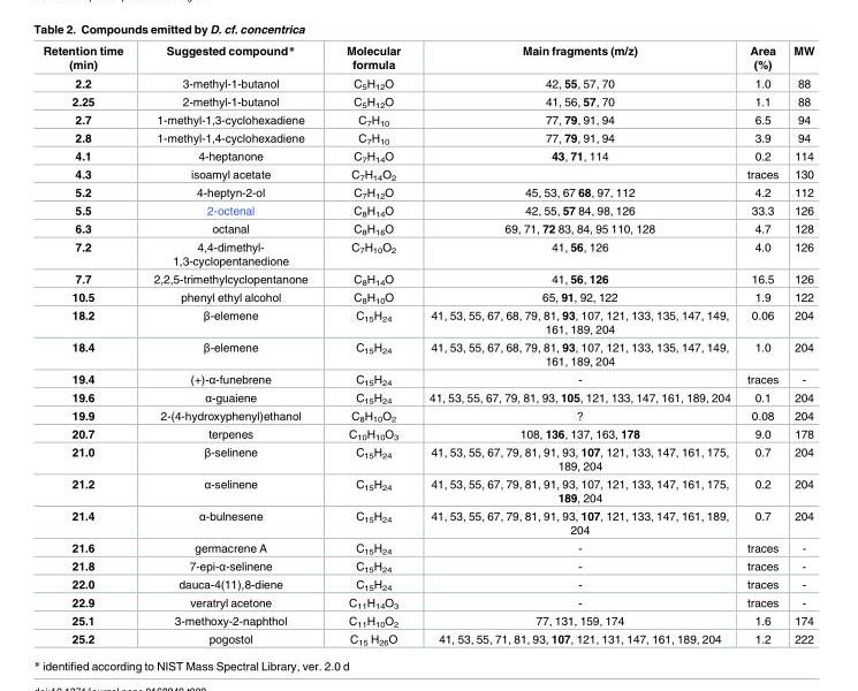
<table><thead><tr><td>Retention time (min)</td><td>Suggested compound*</td><td>Molecular formula</td><td>Main fragments (m/z)</td><td>Area (%)</td><td>MW</td></tr></thead><tbody><tr><td>2.2</td><td>3-methyl-1-butanol</td><td>C<sub>5</sub>H<sub>12</sub>O</td><td>42, 55, 57, 70</td><td>1.0</td><td>88</td></tr><tr><td>2.25</td><td>2-methyl-1-butanol</td><td>C<sub>5</sub>H<sub>12</sub>O</td><td>41, 56, 57, 70</td><td>1.1</td><td>88</td></tr><tr><td>2.7</td><td>1-methyl-1,3-cyclohexadiene</td><td>C<sub>7</sub>H<sub>10</sub></td><td>77, 79, 91, 94</td><td>6.5</td><td>94</td></tr><tr><td>2.8</td><td>1-methyl-1,4-cyclohexadiene</td><td>C<sub>7</sub>H<sub>10</sub></td><td>77, 79, 91, 94</td><td>3.9</td><td>94</td></tr><tr><td>4.1</td><td>4-heptanone</td><td>C<sub>7</sub>H<sub>14</sub>O</td><td>43, 71, 114</td><td>0.2</td><td>114</td></tr><tr><td>4.3</td><td>isoamyl acetate</td><td>C<sub>7</sub>H<sub>14</sub>O<sub>2</sub></td><td></td><td>traces</td><td>130</td></tr><tr><td>5.2</td><td>4-heptyn-2-ol</td><td>C<sub>7</sub>H<sub>12</sub>O</td><td>45, 53, 67 68, 97, 112</td><td>4.2</td><td>112</td></tr><tr><td>5.5</td><td>2-octenal</td><td>C<sub>8</sub>H<sub>14</sub>O</td><td>42, 55, 57 84, 98, 126</td><td>33.3</td><td>126</td></tr><tr><td>6.3</td><td>octanal</td><td>C<sub>8</sub>H<sub>16</sub>O</td><td>69, 71, 72 83, 84, 95 110, 128</td><td>4.7</td><td>128</td></tr><tr><td>7.2</td><td>4,4-dimethyl- 1,3-cyclopentanedione</td><td>C<sub>7</sub>H<sub>10</sub>O<sub>2</sub></td><td>41, 56, 126</td><td>4.0</td><td>126</td></tr><tr><td>7.7</td><td>2,2,5-trimethylcyclopentanone</td><td>C<sub>8</sub>H<sub>14</sub>O</td><td>41, 56, 126</td><td>16.5</td><td>126</td></tr><tr><td>10.5</td><td>phenyl ethyl alcohol</td><td>C<sub>8</sub>H<sub>10</sub>O</td><td>65, 91, 92, 122</td><td>1.9</td><td>122</td></tr><tr><td>18.2</td><td>β-elemene</td><td>C<sub>15</sub>H<sub>24</sub></td><td>41, 53, 55, 67, 68, 79, 81, 93, 107, 121, 133, 135, 147, 149, 161, 189, 204</td><td>0.06</td><td>204</td></tr><tr><td>18.4</td><td>β-elemene</td><td>C<sub>15</sub>H<sub>24</sub></td><td>41, 53, 55, 67, 68, 79, 81, 93, 107, 121, 133, 135, 147, 149, 161, 189, 204</td><td>1.0</td><td>204</td></tr><tr><td>19.4</td><td>(+)-α-funebrene</td><td>C<sub>15</sub>H<sub>24</sub></td><td>-</td><td>traces</td><td>-</td></tr><tr><td>19.6</td><td>α-guaiene</td><td>C<sub>15</sub>H<sub>24</sub></td><td>41, 53, 55, 67, 79, 81, 93, 105, 121, 133, 147, 161, 189, 204</td><td>0.1</td><td>204</td></tr><tr><td>19.9</td><td>2-(4-hydroxyphenyl)ethanol</td><td>C<sub>8</sub>H<sub>10</sub>O<sub>2</sub></td><td>?</td><td>0.08</td><td>204</td></tr><tr><td>20.7</td><td>terpenes</td><td>C<sub>10</sub>H<sub>10</sub>O<sub>3</sub></td><td>108, 136, 137, 163, 178</td><td>9.0</td><td>178</td></tr><tr><td>21.0</td><td>β-selinene</td><td>C<sub>15</sub>H<sub>24</sub></td><td>41, 53, 55, 67, 79, 81, 91, 93, 107, 121, 133, 147, 161, 175, 189, 204</td><td>0.7</td><td>204</td></tr><tr><td>21.2</td><td>α-selinene</td><td>C<sub>15</sub>H<sub>24</sub></td><td>41, 53, 55, 67, 79, 81, 91, 93, 107, 121, 133, 147, 161, 175, 189, 204</td><td>0.2</td><td>204</td></tr><tr><td>21.4</td><td>α-bulnesene</td><td>C<sub>15</sub>H<sub>24</sub></td><td>41, 53, 55, 67, 79, 81, 91, 93, 107, 121, 133, 147, 161, 189, 204</td><td>0.7</td><td>204</td></tr><tr><td>21.6</td><td>germacrene A</td><td>C<sub>15</sub>H<sub>24</sub></td><td>-</td><td>traces</td><td>-</td></tr><tr><td>21.8</td><td>7-epi-α-selinene</td><td>C<sub>15</sub>H<sub>24</sub></td><td>-</td><td>traces</td><td>-</td></tr><tr><td>22.0</td><td>dauca-4(11),8-diene</td><td>C<sub>15</sub>H<sub>24</sub></td><td>-</td><td>traces</td><td>-</td></tr><tr><td>22.9</td><td>veratryl acetone</td><td>C<sub>11</sub>H<sub>14</sub>O<sub>3</sub></td><td>-</td><td>traces</td><td>-</td></tr><tr><td>25.1</td><td>3-methoxy-2-naphthol</td><td>C<sub>11</sub>H<sub>10</sub>O<sub>2</sub></td><td>77, 131, 159, 174</td><td>1.6</td><td>174</td></tr><tr><td>25.2</td><td>pogostol</td><td>C<sub>15</sub> H<sub>26</sub>O</td><td>41, 53, 55, 71, 81, 93, 107, 121, 131, 147, 161, 189, 204</td><td>1.2</td><td>222</td></tr></tbody></table>